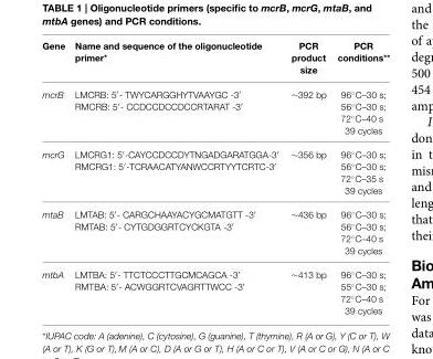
<table><thead><tr><td>Gene</td><td>Name and sequence of the oligonucleotide primer*</td><td>PCR product size</td><td>PCR conditions**</td></tr></thead><tbody><tr><td>mcrB</td><td>LMCRB: 5′- TWYCARGGHYTVAAYGC -3′ RMCRB: 5′- CCDCCDCCDCCRTARAT -3′</td><td>∼392 bp</td><td>96◦C–30 s; 56◦C–30 s; 72◦C–40 s 39 cycles</td></tr><tr><td>mcrG</td><td>LMCRG1: 5′-CAYCCDCCDYTNGADGARATGGA-3′ RMCRG1: 5′-TCRAACATYANWCCRTYYTCRTC-3′</td><td>∼356 bp</td><td>96◦C–30 s; 56◦C–30 s; 72◦C–35 s 39 cycles</td></tr><tr><td>mtaB</td><td>LMTAB: 5′- CARGCHAAYACYGCMATGTT -3′ RMTAB: 5′- CYTGDGGRTCYCKGTA -3′</td><td>∼436 bp</td><td>96◦C–30 s; 56◦C–30 s; 72◦C–40 s 39 cycles</td></tr><tr><td>mtbA</td><td>LMTBA: 5′- TTCTCCCTTGCMCAGCA -3′ RMTBA: 5′- ACWGGRTCVAGRTTWCC -3′</td><td>∼413 bp</td><td>96◦C–30 s; 55◦C–30 s; 72◦C–40 s 39 cycles</td></tr></tbody></table>